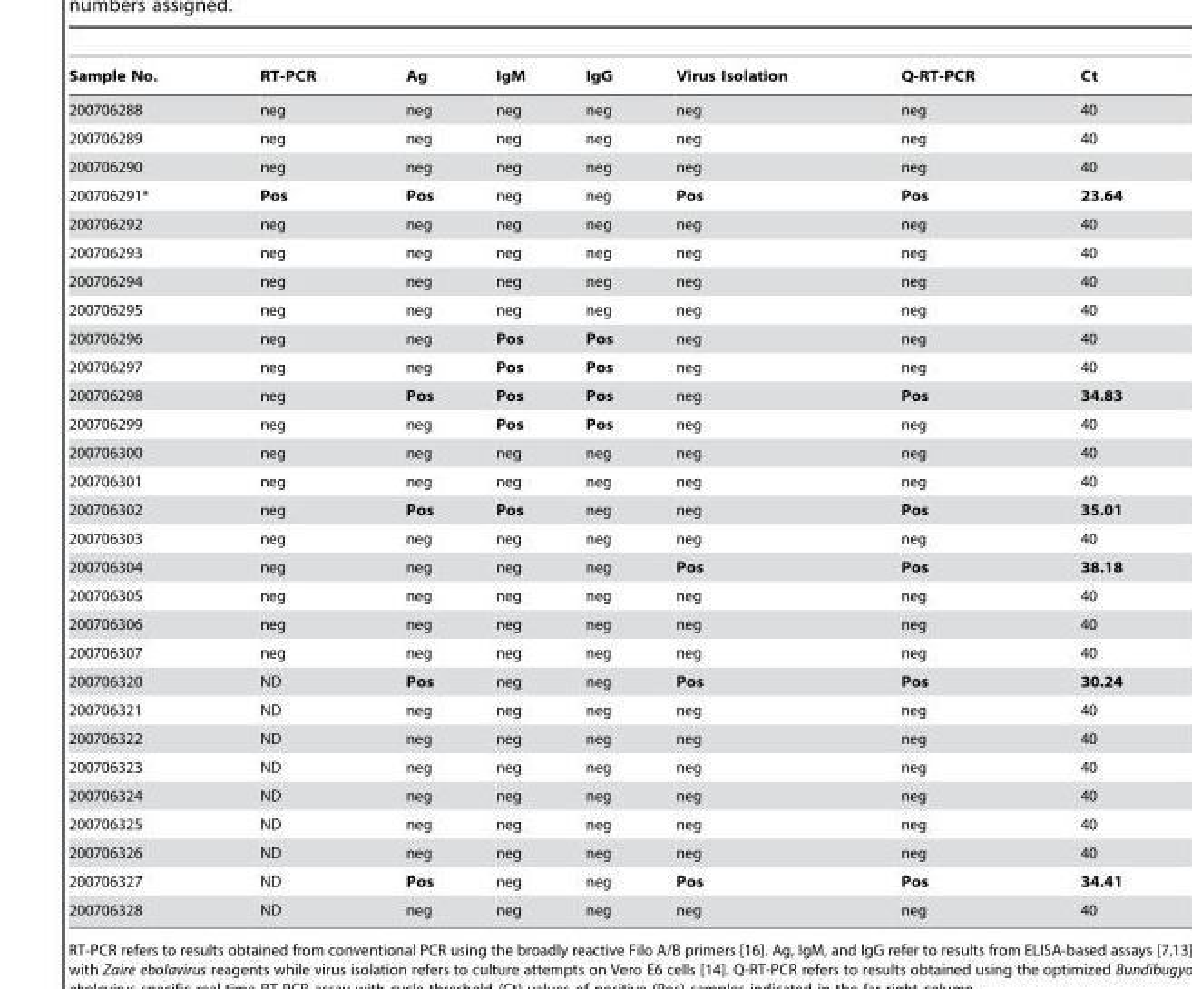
<table><thead><tr><td>Sample No.</td><td>RT-PCR</td><td>Ag</td><td>IgM</td><td>IgG</td><td>Virus Isolation</td><td>Q-RT-PCR</td><td>Ct</td></tr></thead><tbody><tr><td>200706288</td><td>neg</td><td>neg</td><td>neg</td><td>neg</td><td>neg</td><td>neg</td><td>40</td></tr><tr><td>200706289</td><td>neg</td><td>neg</td><td>neg</td><td>neg</td><td>neg</td><td>neg</td><td>40</td></tr><tr><td>200706290</td><td>neg</td><td>neg</td><td>neg</td><td>neg</td><td>neg</td><td>neg</td><td>40</td></tr><tr><td>200706291*</td><td>Pos</td><td>Pos</td><td>neg</td><td>neg</td><td>Pos</td><td>Pos</td><td>23.64</td></tr><tr><td>200706292</td><td>neg</td><td>neg</td><td>neg</td><td>neg</td><td>neg</td><td>neg</td><td>40</td></tr><tr><td>200706293</td><td>neg</td><td>neg</td><td>neg</td><td>neg</td><td>neg</td><td>neg</td><td>40</td></tr><tr><td>200706294</td><td>neg</td><td>neg</td><td>neg</td><td>neg</td><td>neg</td><td>neg</td><td>40</td></tr><tr><td>200706295</td><td>neg</td><td>neg</td><td>neg</td><td>neg</td><td>neg</td><td>neg</td><td>40</td></tr><tr><td>200706296</td><td>neg</td><td>neg</td><td>Pos</td><td>Pos</td><td>neg</td><td>neg</td><td>40</td></tr><tr><td>200706297</td><td>neg</td><td>neg</td><td>Pos</td><td>Pos</td><td>neg</td><td>neg</td><td>40</td></tr><tr><td>200706298</td><td>neg</td><td>Pos</td><td>Pos</td><td>Pos</td><td>neg</td><td>Pos</td><td>34.83</td></tr><tr><td>200706299</td><td>neg</td><td>neg</td><td>Pos</td><td>Pos</td><td>neg</td><td>neg</td><td>40</td></tr><tr><td>200706300</td><td>neg</td><td>neg</td><td>neg</td><td>neg</td><td>neg</td><td>neg</td><td>40</td></tr><tr><td>200706301</td><td>neg</td><td>neg</td><td>neg</td><td>neg</td><td>neg</td><td>neg</td><td>40</td></tr><tr><td>200706302</td><td>neg</td><td>Pos</td><td>Pos</td><td>neg</td><td>neg</td><td>Pos</td><td>35.01</td></tr><tr><td>200706303</td><td>neg</td><td>neg</td><td>neg</td><td>neg</td><td>neg</td><td>neg</td><td>40</td></tr><tr><td>200706304</td><td>neg</td><td>neg</td><td>neg</td><td>neg</td><td>Pos</td><td>Pos</td><td>38.18</td></tr><tr><td>200706305</td><td>neg</td><td>neg</td><td>neg</td><td>neg</td><td>neg</td><td>neg</td><td>40</td></tr><tr><td>200706306</td><td>neg</td><td>neg</td><td>neg</td><td>neg</td><td>neg</td><td>neg</td><td>40</td></tr><tr><td>200706307</td><td>neg</td><td>neg</td><td>neg</td><td>neg</td><td>neg</td><td>neg</td><td>40</td></tr><tr><td>200706320</td><td>ND</td><td>Pos</td><td>neg</td><td>neg</td><td>Pos</td><td>Pos</td><td>30.24</td></tr><tr><td>200706321</td><td>ND</td><td>neg</td><td>neg</td><td>neg</td><td>neg</td><td>neg</td><td>40</td></tr><tr><td>200706322</td><td>ND</td><td>neg</td><td>neg</td><td>neg</td><td>neg</td><td>neg</td><td>40</td></tr><tr><td>200706323</td><td>ND</td><td>neg</td><td>neg</td><td>neg</td><td>neg</td><td>neg</td><td>40</td></tr><tr><td>200706324</td><td>ND</td><td>neg</td><td>neg</td><td>neg</td><td>neg</td><td>neg</td><td>40</td></tr><tr><td>200706325</td><td>ND</td><td>neg</td><td>neg</td><td>neg</td><td>neg</td><td>neg</td><td>40</td></tr><tr><td>200706326</td><td>ND</td><td>neg</td><td>neg</td><td>neg</td><td>neg</td><td>neg</td><td>40</td></tr><tr><td>200706327</td><td>ND</td><td>Pos</td><td>neg</td><td>neg</td><td>Pos</td><td>Pos</td><td>34.41</td></tr><tr><td>200706328</td><td>ND</td><td>neg</td><td>neg</td><td>neg</td><td>neg</td><td>neg</td><td>40</td></tr></tbody></table>